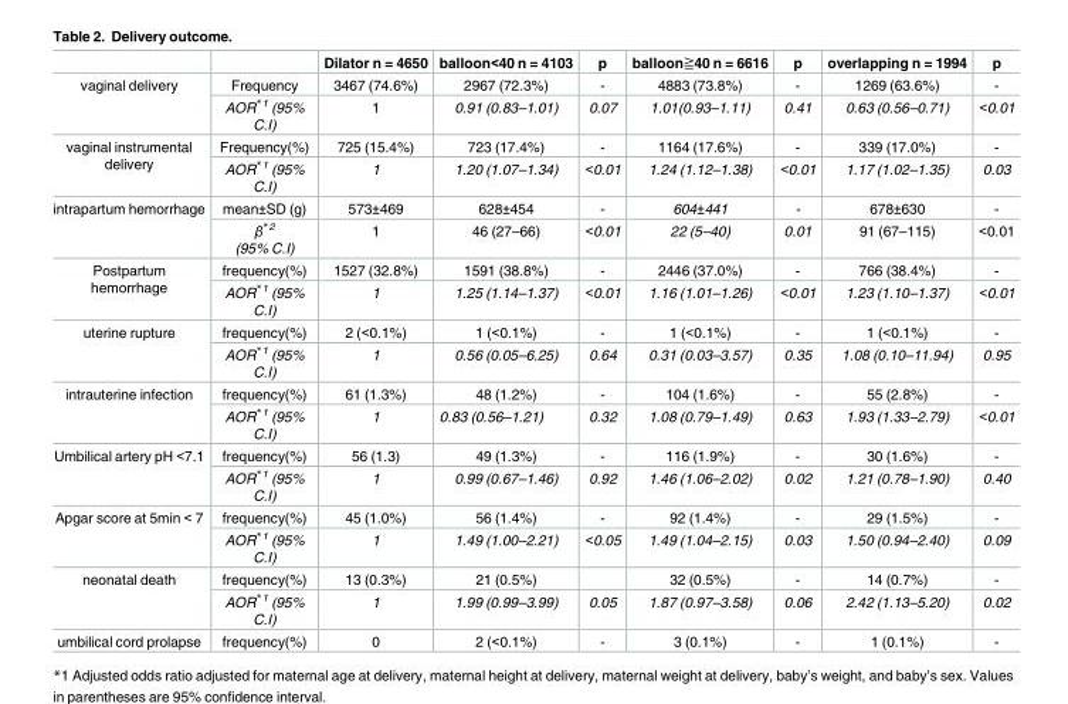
<table><thead><tr><td></td><td></td><td>Dilator n = 4650</td><td>balloon&lt;40 n = 4103</td><td>p</td><td>balloon≧40 n = 6616</td><td>p</td><td>overlapping n = 1994</td><td>p</td></tr></thead><tbody><tr><td rowspan="2">vaginal delivery</td><td>Frequency</td><td>3467 (74.6%)</td><td>2967 (72.3%)</td><td>-</td><td>4883 (73.8%)</td><td>-</td><td>1269 (63.6%)</td><td>-</td></tr><tr><td>AOR<sup>*1</sup> (95% C.I)</td><td>1</td><td>0.91 (0.83–1.01)</td><td>0.07</td><td>1.01(0.93–1.11)</td><td>0.41</td><td>0.63 (0.56–0.71)</td><td>&lt;0.01</td></tr><tr><td rowspan="2">vaginal instrumental delivery</td><td>Frequency(%)</td><td>725 (15.4%)</td><td>723 (17.4%)</td><td>-</td><td>1164 (17.6%)</td><td>-</td><td>339 (17.0%)</td><td>-</td></tr><tr><td>AOR<sup>*1</sup> (95% C.I)</td><td>1</td><td>1.20 (1.07–1.34)</td><td>&lt;0.01</td><td>1.24 (1.12–1.38)</td><td>&lt;0.01</td><td>1.17 (1.02–1.35)</td><td>0.03</td></tr><tr><td rowspan="2">intrapartum hemorrhage</td><td>mean±SD (g)</td><td>573±469</td><td>628±454</td><td>-</td><td>604±441</td><td>-</td><td>678±630</td><td>-</td></tr><tr><td>β<sup>*2</sup> (95% C.I)</td><td>1</td><td>46 (27–66)</td><td>&lt;0.01</td><td>22 (5–40)</td><td>0.01</td><td>91 (67–115)</td><td>&lt;0.01</td></tr><tr><td rowspan="2">Postpartum hemorrhage</td><td>frequency(%)</td><td>1527 (32.8%)</td><td>1591 (38.8%)</td><td>-</td><td>2446 (37.0%)</td><td>-</td><td>766 (38.4%)</td><td>-</td></tr><tr><td>AOR<sup>*1</sup> (95% C.I)</td><td>1</td><td>1.25 (1.14–1.37)</td><td>&lt;0.01</td><td>1.16 (1.01–1.26)</td><td>&lt;0.01</td><td>1.23 (1.10–1.37)</td><td>&lt;0.01</td></tr><tr><td rowspan="2">uterine rupture</td><td>frequency(%)</td><td>2 (&lt;0.1%)</td><td>1 (&lt;0.1%)</td><td>-</td><td>1 (&lt;0.1%)</td><td>-</td><td>1 (&lt;0.1%)</td><td>-</td></tr><tr><td>AOR<sup>*1</sup> (95% C.I)</td><td>1</td><td>0.56 (0.05–6.25)</td><td>0.64</td><td>0.31 (0.03–3.57)</td><td>0.35</td><td>1.08 (0.10–11.94)</td><td>0.95</td></tr><tr><td rowspan="2">intrauterine infection</td><td>frequency(%)</td><td>61 (1.3%)</td><td>48 (1.2%)</td><td>-</td><td>104 (1.6%)</td><td>-</td><td>55 (2.8%)</td><td>-</td></tr><tr><td>AOR<sup>*1</sup> (95% C.I)</td><td>1</td><td>0.83 (0.56–1.21)</td><td>0.32</td><td>1.08 (0.79–1.49)</td><td>0.63</td><td>1.93 (1.33–2.79)</td><td>&lt;0.01</td></tr><tr><td rowspan="2">Umbilical artery pH &lt;7.1</td><td>frequency(%)</td><td>56 (1.3)</td><td>49 (1.3%)</td><td>-</td><td>116 (1.9%)</td><td>-</td><td>30 (1.6%)</td><td>-</td></tr><tr><td>AOR<sup>*1</sup> (95% C.I)</td><td>1</td><td>0.99 (0.67–1.46)</td><td>0.92</td><td>1.46 (1.06–2.02)</td><td>0.02</td><td>1.21 (0.78–1.90)</td><td>0.40</td></tr><tr><td rowspan="2">Apgar score at 5min &lt; 7</td><td>frequency(%)</td><td>45 (1.0%)</td><td>56 (1.4%)</td><td>-</td><td>92 (1.4%)</td><td>-</td><td>29 (1.5%)</td><td>-</td></tr><tr><td>AOR<sup>*1</sup> (95% C.I)</td><td>1</td><td>1.49 (1.00–2.21)</td><td>&lt;0.05</td><td>1.49 (1.04–2.15)</td><td>0.03</td><td>1.50 (0.94–2.40)</td><td>0.09</td></tr><tr><td rowspan="2">neonatal death</td><td>frequency(%)</td><td>13 (0.3%)</td><td>21 (0.5%)</td><td></td><td>32 (0.5%)</td><td>-</td><td>14 (0.7%)</td><td>-</td></tr><tr><td>AOR<sup>*1</sup> (95% C.I)</td><td>1</td><td>1.99 (0.99–3.99)</td><td>0.05</td><td>1.87 (0.97–3.58)</td><td>0.06</td><td>2.42 (1.13–5.20)</td><td>0.02</td></tr><tr><td>umbilical cord prolapse</td><td>frequency(%)</td><td>0</td><td>2 (&lt;0.1%)</td><td>-</td><td>3 (0.1%)</td><td>-</td><td>1 (0.1%)</td><td>-</td></tr></tbody></table>